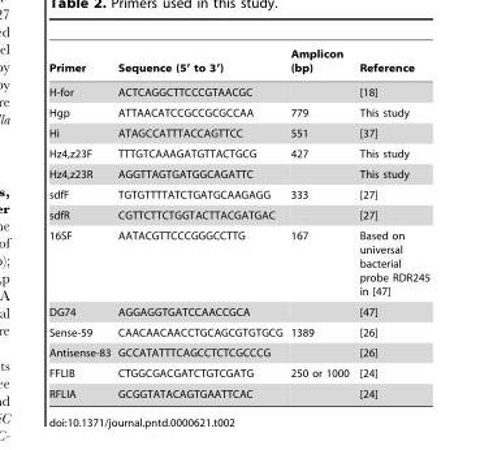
<table><thead><tr><td>Primer</td><td>Sequence (5′ to 3′)</td><td>Amplicon (bp)</td><td>Reference</td></tr></thead><tbody><tr><td>H-for</td><td>ACTCAGGCTTCCCGTAACGC</td><td></td><td>[18]</td></tr><tr><td>Hgp</td><td>ATTAACATCCGCCGCGCCAA</td><td>779</td><td>This study</td></tr><tr><td>Hi</td><td>ATAGCCATTTACCAGTTCC</td><td>551</td><td>[37]</td></tr><tr><td>Hz4,z23F</td><td>TTTGTCAAAGATGTTACTGCG</td><td>427</td><td>This study</td></tr><tr><td>Hz4,z23R</td><td>AGGTTAGTGATGGCAGATTC</td><td></td><td>This study</td></tr><tr><td>sdfF</td><td>TGTGTTTTATCTGATGCAAGAGG</td><td>333</td><td>[27]</td></tr><tr><td>sdfR</td><td>CGTTCTTCTGGTACTTACGATGAC</td><td></td><td>[27]</td></tr><tr><td>16SF</td><td>AATACGTTCCCGGGCCTTG</td><td>167</td><td>Based on universal bacterial probe RDR245 in [47]</td></tr><tr><td>DG74</td><td>AGGAGGTGATCCAACCGCA</td><td></td><td>[47]</td></tr><tr><td>Sense-59</td><td>CAACAACAACCTGCAGCGTGTGCG</td><td>1389</td><td>[26]</td></tr><tr><td>Antisense-83</td><td>GCCATATTTCAGCCTCTCGCCCG</td><td></td><td>[26]</td></tr><tr><td>FFLIB</td><td>CTGGCGACGATCTGTCGATG</td><td>250 or 1000</td><td>[24]</td></tr><tr><td>RFLIA</td><td>GCGGTATACAGTGAATTCAC</td><td></td><td>[24]</td></tr></tbody></table>